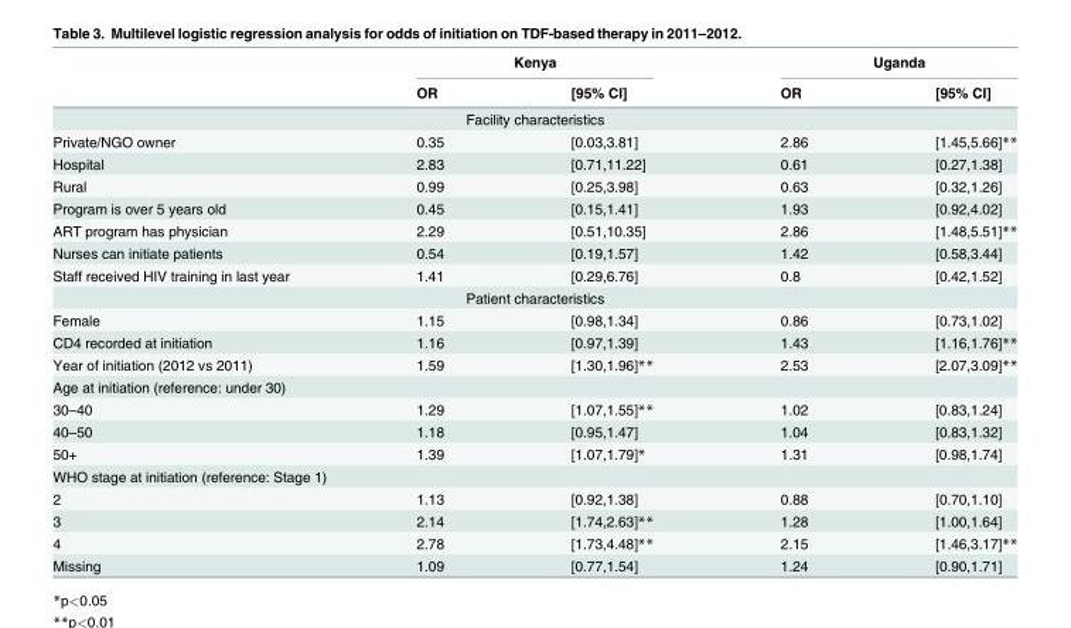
<table><thead><tr><td rowspan="2"></td><td colspan="2">Kenya</td><td colspan="2">Uganda</td></tr><tr><td>OR</td><td>[95% CI]</td><td>OR</td><td>[95% CI]</td></tr></thead><tbody><tr><td colspan="5">Facility characteristics</td></tr><tr><td>Private/NGO owner</td><td>0.35</td><td>[0.03,3.81]</td><td>2.86</td><td>[1.45,5.66]**</td></tr><tr><td>Hospital</td><td>2.83</td><td>[0.71,11.22]</td><td>0.61</td><td>[0.27,1.38]</td></tr><tr><td>Rural</td><td>0.99</td><td>[0.25,3.98]</td><td>0.63</td><td>[0.32,1.26]</td></tr><tr><td>Program is over 5 years old</td><td>0.45</td><td>[0.15,1.41]</td><td>1.93</td><td>[0.92,4.02]</td></tr><tr><td>ART program has physician</td><td>2.29</td><td>[0.51,10.35]</td><td>2.86</td><td>[1.48,5.51]**</td></tr><tr><td>Nurses can initiate patients</td><td>0.54</td><td>[0.19,1.57]</td><td>1.42</td><td>[0.58,3.44]</td></tr><tr><td>Staff received HIV training in last year</td><td>1.41</td><td>[0.29,6.76]</td><td>0.8</td><td>[0.42,1.52]</td></tr><tr><td colspan="5">Patient characteristics</td></tr><tr><td>Female</td><td>1.15</td><td>[0.98,1.34]</td><td>0.86</td><td>[0.73,1.02]</td></tr><tr><td>CD4 recorded at initiation</td><td>1.16</td><td>[0.97,1.39]</td><td>1.43</td><td>[1.16,1.76]**</td></tr><tr><td>Year of initiation (2012 vs 2011)</td><td>1.59</td><td>[1.30,1.96]**</td><td>2.53</td><td>[2.07,3.09]**</td></tr><tr><td colspan="5">Age at initiation (reference: under 30)</td></tr><tr><td>30–40</td><td>1.29</td><td>[1.07,1.55]**</td><td>1.02</td><td>[0.83,1.24]</td></tr><tr><td>40–50</td><td>1.18</td><td>[0.95,1.47]</td><td>1.04</td><td>[0.83,1.32]</td></tr><tr><td>50+</td><td>1.39</td><td>[1.07,1.79]*</td><td>1.31</td><td>[0.98,1.74]</td></tr><tr><td colspan="5">WHO stage at initiation (reference: Stage 1)</td></tr><tr><td>2</td><td>1.13</td><td>[0.92,1.38]</td><td>0.88</td><td>[0.70,1.10]</td></tr><tr><td>3</td><td>2.14</td><td>[1.74,2.63]**</td><td>1.28</td><td>[1.00,1.64]</td></tr><tr><td>4</td><td>2.78</td><td>[1.73,4.48]**</td><td>2.15</td><td>[1.46,3.17]**</td></tr><tr><td>Missing</td><td>1.09</td><td>[0.77,1.54]</td><td>1.24</td><td>[0.90,1.71]</td></tr></tbody></table>